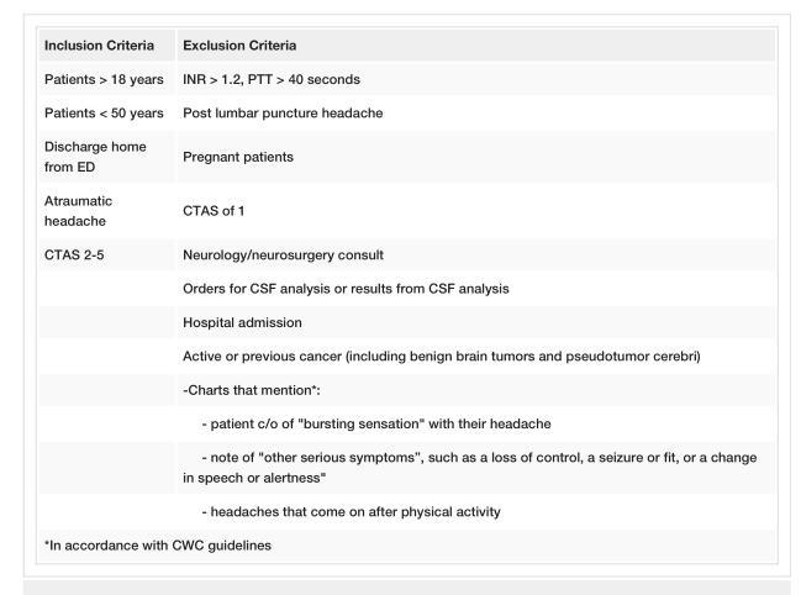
<table><tbody><tr><td>Inclusion Criteria</td><td>Exclusion Criteria</td></tr><tr><td>Patients &gt; 18 years</td><td>INR &gt; 1.2, PTT &gt; 40 seconds</td></tr><tr><td>Patients &lt; 50 years</td><td>Post lumbar puncture headache</td></tr><tr><td>Discharge home from ED</td><td>Pregnant patients</td></tr><tr><td>Atraumatic headache</td><td>CTAS of 1</td></tr><tr><td rowspan="8">CTAS 2-5</td><td>Neurology/neurosurgery consult</td></tr><tr><td>Orders for CSF analysis or results from CSF analysis</td></tr><tr><td>Hospital admission</td></tr><tr><td>Active or previous cancer (including benign brain tumors and pseudotumor cerebri)</td></tr><tr><td>-Charts that mention*:</td></tr><tr><td>- patient c/o of &quot;bursting sensation&quot; with their headache</td></tr><tr><td>- note of &quot;other serious symptoms”, such as a loss of control, a seizure or fit, or a change in speech or alertness&quot;</td></tr><tr><td>- headaches that come on after physical activity</td></tr><tr><td colspan="2">*In accordance with CWC guidelines</td></tr></tbody></table>